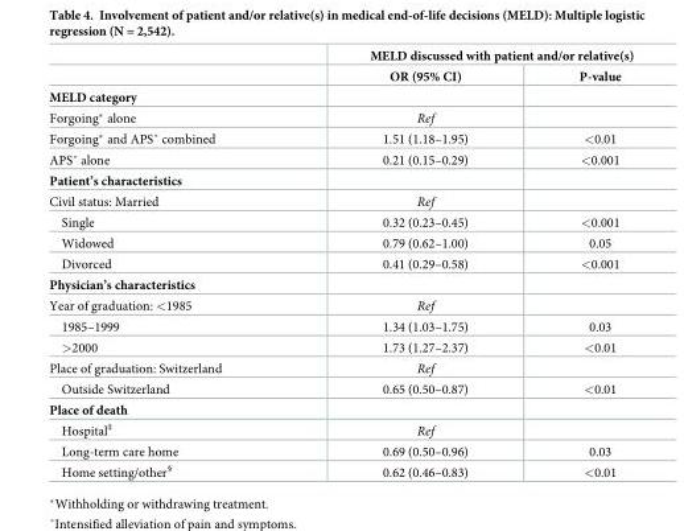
<table><thead><tr><td rowspan="2"></td><td colspan="2">MELD discussed with patient and/or relative(s)</td></tr><tr><td>OR (95% CI)</td><td>P-value</td></tr></thead><tbody><tr><td colspan="3">MELD category</td></tr><tr><td>Forgoing* alone</td><td>Ref</td><td></td></tr><tr><td>Forgoing* and APS˚ combined</td><td>1.51 (1.18–1.95)</td><td>&lt;0.01</td></tr><tr><td>APS˚ alone</td><td>0.21 (0.15–0.29)</td><td>&lt;0.001</td></tr><tr><td colspan="3">Patient’s characteristics</td></tr><tr><td>Civil status: Married</td><td>Ref</td><td></td></tr><tr><td>Single</td><td>0.32 (0.23–0.45)</td><td>&lt;0.001</td></tr><tr><td>Widowed</td><td>0.79 (0.62–1.00)</td><td>0.05</td></tr><tr><td>Divorced</td><td>0.41 (0.29–0.58)</td><td>&lt;0.001</td></tr><tr><td colspan="3">Physician’s characteristics</td></tr><tr><td>Year of graduation: &lt;1985</td><td>Ref</td><td></td></tr><tr><td>1985–1999</td><td>1.34 (1.03–1.75)</td><td>0.03</td></tr><tr><td>&gt;2000</td><td>1.73 (1.27–2.37)</td><td>&lt;0.01</td></tr><tr><td>Place of graduation: Switzerland</td><td>Ref</td><td></td></tr><tr><td>Outside Switzerland</td><td>0.65 (0.50–0.87)</td><td>&lt;0.01</td></tr><tr><td colspan="3">Place of death</td></tr><tr><td>Hospital<sup>‡</sup></td><td>Ref</td><td></td></tr><tr><td>Long-term care home</td><td>0.69 (0.50–0.96)</td><td>0.03</td></tr><tr><td>Home setting/other<sup>§</sup></td><td>0.62 (0.46–0.83)</td><td>&lt;0.01</td></tr></tbody></table>